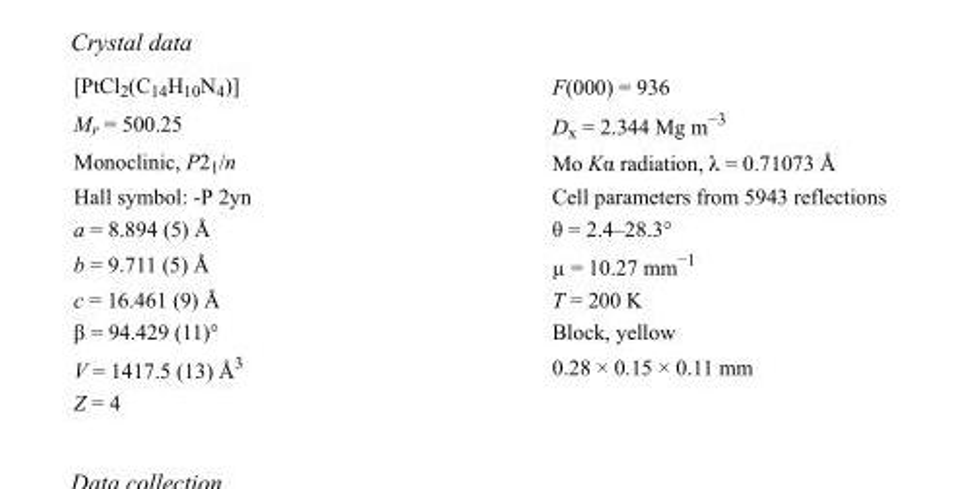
<table><tbody><tr><td>[PtCl<sub>2</sub>(C<sub>14</sub>H<sub>10</sub>N<sub>4</sub>)]</td><td>F(000) = 936</td></tr><tr><td>M<sub>r</sub> = 500.25</td><td>D<sub>x</sub> = 2.344 Mg m<sup>−3</sup></td></tr><tr><td>Monoclinic, P2<sub>1</sub>/n</td><td>Mo Kα radiation, λ = 0.71073 Å</td></tr><tr><td>Hall symbol: -P 2yn</td><td>Cell parameters from 5943 reflections</td></tr><tr><td>a = 8.894 (5) Å</td><td>θ = 2.4–28.3°</td></tr><tr><td>b = 9.711 (5) Å</td><td>µ = 10.27 mm<sup>−1</sup></td></tr><tr><td>c = 16.461 (9) Å</td><td>T = 200 K</td></tr><tr><td>β = 94.429 (11)°</td><td>Block, yellow</td></tr><tr><td>V = 1417.5 (13) Å<sup>3</sup></td><td>0.28 × 0.15 × 0.11 mm</td></tr><tr><td>Z = 4</td><td></td></tr></tbody></table>